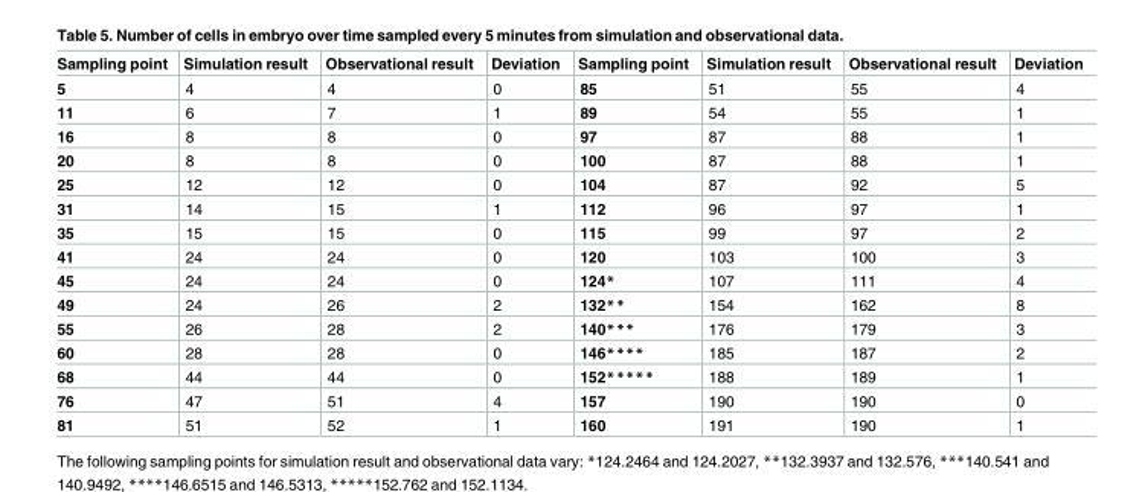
<table><thead><tr><td>Sampling point</td><td>Simulation result</td><td>Observational result</td><td>Deviation</td><td>Sampling point</td><td>Simulation result</td><td>Observational result</td><td>Deviation</td></tr></thead><tbody><tr><td>5</td><td>4</td><td>4</td><td>0</td><td>85</td><td>51</td><td>55</td><td>4</td></tr><tr><td>11</td><td>6</td><td>7</td><td>1</td><td>89</td><td>54</td><td>55</td><td>1</td></tr><tr><td>16</td><td>8</td><td>8</td><td>0</td><td>97</td><td>87</td><td>88</td><td>1</td></tr><tr><td>20</td><td>8</td><td>8</td><td>0</td><td>100</td><td>87</td><td>88</td><td>1</td></tr><tr><td>25</td><td>12</td><td>12</td><td>0</td><td>104</td><td>87</td><td>92</td><td>5</td></tr><tr><td>31</td><td>14</td><td>15</td><td>1</td><td>112</td><td>96</td><td>97</td><td>1</td></tr><tr><td>35</td><td>15</td><td>15</td><td>0</td><td>115</td><td>99</td><td>97</td><td>2</td></tr><tr><td>41</td><td>24</td><td>24</td><td>0</td><td>120</td><td>103</td><td>100</td><td>3</td></tr><tr><td>45</td><td>24</td><td>24</td><td>0</td><td>124*</td><td>107</td><td>111</td><td>4</td></tr><tr><td>49</td><td>24</td><td>26</td><td>2</td><td>132**</td><td>154</td><td>162</td><td>8</td></tr><tr><td>55</td><td>26</td><td>28</td><td>2</td><td>140***</td><td>176</td><td>179</td><td>3</td></tr><tr><td>60</td><td>28</td><td>28</td><td>0</td><td>146****</td><td>185</td><td>187</td><td>2</td></tr><tr><td>68</td><td>44</td><td>44</td><td>0</td><td>152*****</td><td>188</td><td>189</td><td>1</td></tr><tr><td>76</td><td>47</td><td>51</td><td>4</td><td>157</td><td>190</td><td>190</td><td>0</td></tr><tr><td>81</td><td>51</td><td>52</td><td>1</td><td>160</td><td>191</td><td>190</td><td>1</td></tr></tbody></table>